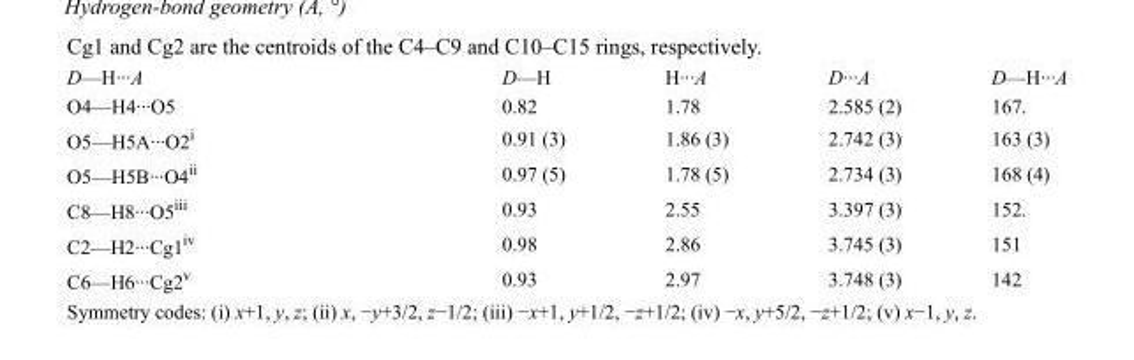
<table><tbody><tr><td>D—H···A</td><td>D—H</td><td>H···A</td><td>D···A</td><td>D—H···A</td></tr><tr><td>O4—H4···O5</td><td>0.82</td><td>1.78</td><td>2.585 (2)</td><td>167.</td></tr><tr><td>O5—H5A···O2<sup>i</sup></td><td>0.91 (3)</td><td>1.86 (3)</td><td>2.742 (3)</td><td>163 (3)</td></tr><tr><td>O5—H5B···O4<sup>ii</sup></td><td>0.97 (5)</td><td>1.78 (5)</td><td>2.734 (3)</td><td>168 (4)</td></tr><tr><td>C8—H8···O5<sup>iii</sup></td><td>0.93</td><td>2.55</td><td>3.397 (3)</td><td>152.</td></tr><tr><td>C2—H2···Cg1<sup>iv</sup></td><td>0.98</td><td>2.86</td><td>3.745 (3)</td><td>151</td></tr><tr><td>C6—H6···Cg2<sup>v</sup></td><td>0.93</td><td>2.97</td><td>3.748 (3)</td><td>142</td></tr></tbody></table>